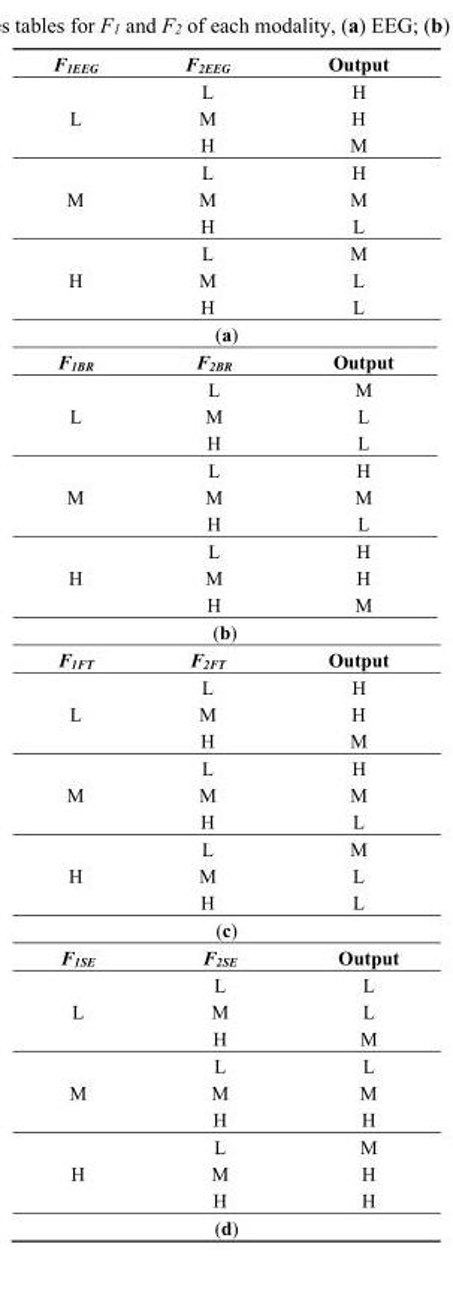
<table><tbody><tr><td>F<sub>1EEG</sub></td><td>F<sub>2EEG</sub></td><td>Output</td></tr><tr><td rowspan="3">L</td><td>L</td><td>H</td></tr><tr><td>M</td><td>H</td></tr><tr><td>H</td><td>M</td></tr><tr><td rowspan="3">M</td><td>L</td><td>H</td></tr><tr><td>M</td><td>M</td></tr><tr><td>H</td><td>L</td></tr><tr><td rowspan="3">H</td><td>L</td><td>M</td></tr><tr><td>M</td><td>L</td></tr><tr><td>H</td><td>L</td></tr><tr><td colspan="3">(a)</td></tr><tr><td>F<sub>1BR</sub></td><td>F<sub>2BR</sub></td><td>Output</td></tr><tr><td rowspan="3">L</td><td>L</td><td>M</td></tr><tr><td>M</td><td>L</td></tr><tr><td>H</td><td>L</td></tr><tr><td rowspan="3">M</td><td>L</td><td>H</td></tr><tr><td>M</td><td>M</td></tr><tr><td>H</td><td>L</td></tr><tr><td rowspan="3">H</td><td>L</td><td>H</td></tr><tr><td>M</td><td>H</td></tr><tr><td>H</td><td>M</td></tr><tr><td colspan="3">(b)</td></tr><tr><td>F<sub>1FT</sub></td><td>F<sub>2FT</sub></td><td>Output</td></tr><tr><td rowspan="3">L</td><td>L</td><td>H</td></tr><tr><td>M</td><td>H</td></tr><tr><td>H</td><td>M</td></tr><tr><td rowspan="3">M</td><td>L</td><td>H</td></tr><tr><td>M</td><td>M</td></tr><tr><td>H</td><td>L</td></tr><tr><td rowspan="3">H</td><td>L</td><td>M</td></tr><tr><td>M</td><td>L</td></tr><tr><td>H</td><td>L</td></tr><tr><td colspan="3">(c)</td></tr><tr><td>F<sub>1SE</sub></td><td>F<sub>2SE</sub></td><td>Output</td></tr><tr><td rowspan="3">L</td><td>L</td><td>L</td></tr><tr><td>M</td><td>L</td></tr><tr><td>H</td><td>M</td></tr><tr><td rowspan="3">M</td><td>L</td><td>L</td></tr><tr><td>M</td><td>M</td></tr><tr><td>H</td><td>H</td></tr><tr><td rowspan="3">H</td><td>L</td><td>M</td></tr><tr><td>M</td><td>H</td></tr><tr><td>H</td><td>H</td></tr><tr><td colspan="3">(d)</td></tr></tbody></table>